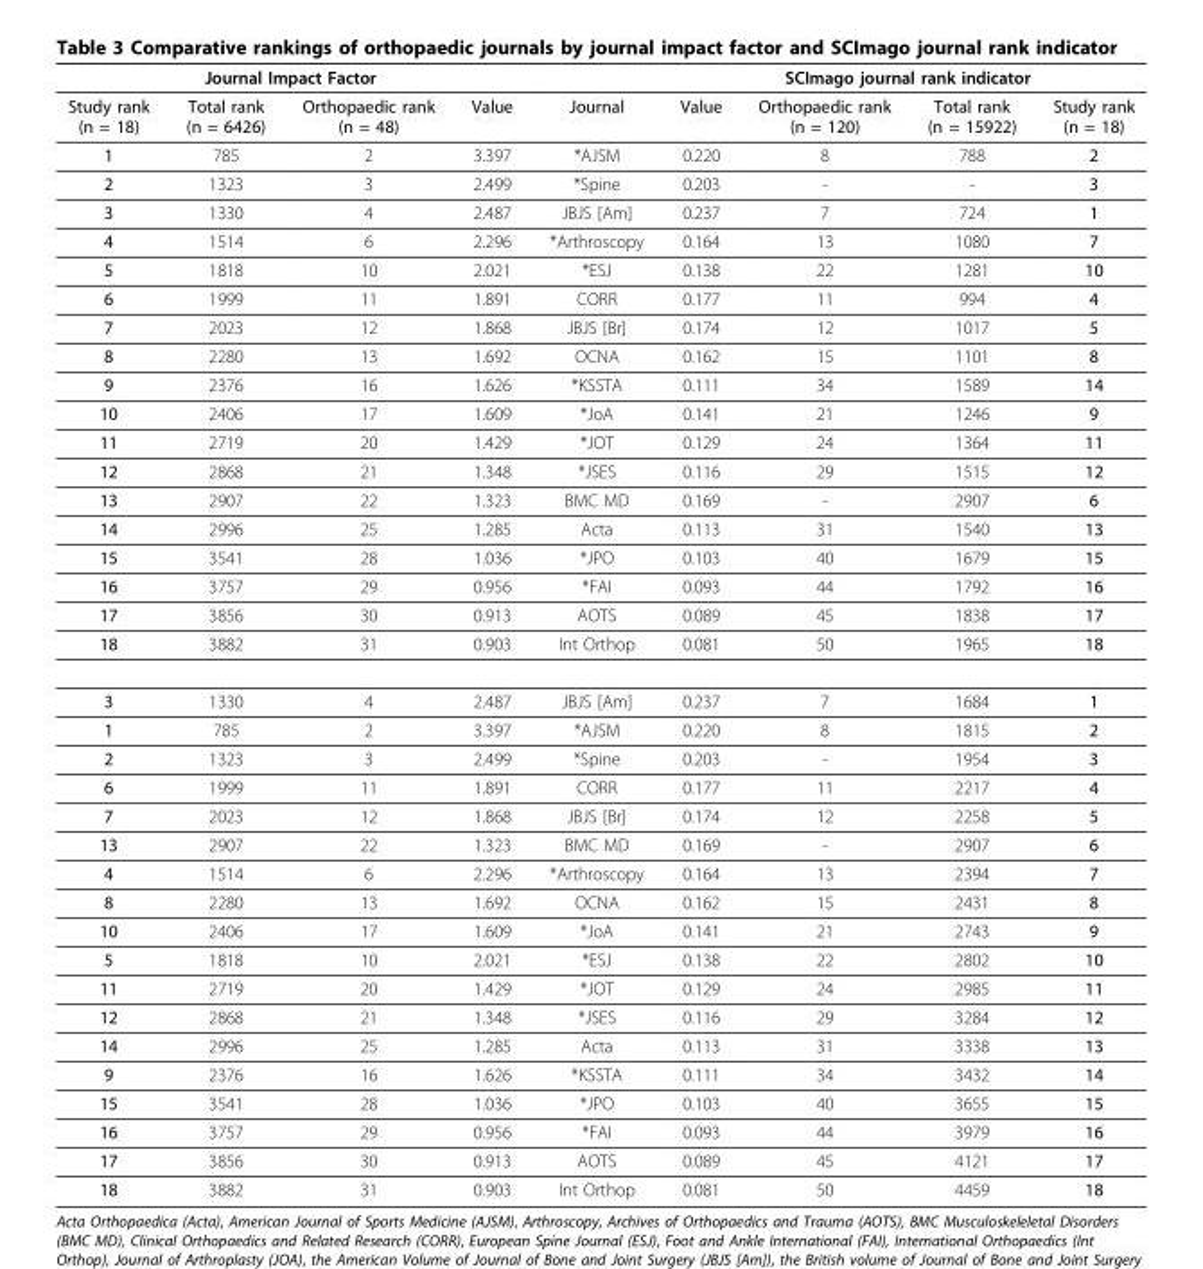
<table><thead><tr><td colspan="4">Journal Impact Factor</td><td rowspan="2">Journal</td><td colspan="4">SCImago journal rank indicator</td></tr><tr><td>Study rank (n = 18)</td><td>Total rank (n = 6426)</td><td>Orthopaedic rank (n = 48)</td><td>Value</td><td>Value</td><td>Orthopaedic rank (n = 120)</td><td>Total rank (n = 15922)</td><td>Study rank (n = 18)</td></tr></thead><tbody><tr><td>1</td><td>785</td><td>2</td><td>3.397</td><td>*AJSM</td><td>0.220</td><td>8</td><td>788</td><td>2</td></tr><tr><td>2</td><td>1323</td><td>3</td><td>2.499</td><td>*Spine</td><td>0.203</td><td>-</td><td>-</td><td>3</td></tr><tr><td>3</td><td>1330</td><td>4</td><td>2.487</td><td>JBJS [Am]</td><td>0.237</td><td>7</td><td>724</td><td>1</td></tr><tr><td>4</td><td>1514</td><td>6</td><td>2.296</td><td>*Arthroscopy</td><td>0.164</td><td>13</td><td>1080</td><td>7</td></tr><tr><td>5</td><td>1818</td><td>10</td><td>2.021</td><td>*ESJ</td><td>0.138</td><td>22</td><td>1281</td><td>10</td></tr><tr><td>6</td><td>1999</td><td>11</td><td>1.891</td><td>CORR</td><td>0.177</td><td>11</td><td>994</td><td>4</td></tr><tr><td>7</td><td>2023</td><td>12</td><td>1.868</td><td>JBJS [Br]</td><td>0.174</td><td>12</td><td>1017</td><td>5</td></tr><tr><td>8</td><td>2280</td><td>13</td><td>1.692</td><td>OCNA</td><td>0.162</td><td>15</td><td>1101</td><td>8</td></tr><tr><td>9</td><td>2376</td><td>16</td><td>1.626</td><td>*KSSTA</td><td>0.111</td><td>34</td><td>1589</td><td>14</td></tr><tr><td>10</td><td>2406</td><td>17</td><td>1.609</td><td>*JoA</td><td>0.141</td><td>21</td><td>1246</td><td>9</td></tr><tr><td>11</td><td>2719</td><td>20</td><td>1.429</td><td>*JOT</td><td>0.129</td><td>24</td><td>1364</td><td>11</td></tr><tr><td>12</td><td>2868</td><td>21</td><td>1.348</td><td>*JSES</td><td>0.116</td><td>29</td><td>1515</td><td>12</td></tr><tr><td>13</td><td>2907</td><td>22</td><td>1.323</td><td>BMC MD</td><td>0.169</td><td>-</td><td>2907</td><td>6</td></tr><tr><td>14</td><td>2996</td><td>25</td><td>1.285</td><td>Acta</td><td>0.113</td><td>31</td><td>1540</td><td>13</td></tr><tr><td>15</td><td>3541</td><td>28</td><td>1.036</td><td>*JPO</td><td>0.103</td><td>40</td><td>1679</td><td>15</td></tr><tr><td>16</td><td>3757</td><td>29</td><td>0.956</td><td>*FAI</td><td>0.093</td><td>44</td><td>1792</td><td>16</td></tr><tr><td>17</td><td>3856</td><td>30</td><td>0.913</td><td>AOTS</td><td>0.089</td><td>45</td><td>1838</td><td>17</td></tr><tr><td>18</td><td>3882</td><td>31</td><td>0.903</td><td>Int Orthop</td><td>0.081</td><td>50</td><td>1965</td><td>18</td></tr><tr><td>3</td><td>1330</td><td>4</td><td>2.487</td><td>JBJS [Am]</td><td>0.237</td><td>7</td><td>1684</td><td>1</td></tr><tr><td>1</td><td>785</td><td>2</td><td>3.397</td><td>*AJSM</td><td>0.220</td><td>8</td><td>1815</td><td>2</td></tr><tr><td>2</td><td>1323</td><td>3</td><td>2.499</td><td>*Spine</td><td>0.203</td><td>-</td><td>1954</td><td>3</td></tr><tr><td>6</td><td>1999</td><td>11</td><td>1.891</td><td>CORR</td><td>0.177</td><td>11</td><td>2217</td><td>4</td></tr><tr><td>7</td><td>2023</td><td>12</td><td>1.868</td><td>JBJS [Br]</td><td>0.174</td><td>12</td><td>2258</td><td>5</td></tr><tr><td>13</td><td>2907</td><td>22</td><td>1.323</td><td>BMC MD</td><td>0.169</td><td>-</td><td>2907</td><td>6</td></tr><tr><td>4</td><td>1514</td><td>6</td><td>2.296</td><td>*Arthroscopy</td><td>0.164</td><td>13</td><td>2394</td><td>7</td></tr><tr><td>8</td><td>2280</td><td>13</td><td>1.692</td><td>OCNA</td><td>0.162</td><td>15</td><td>2431</td><td>8</td></tr><tr><td>10</td><td>2406</td><td>17</td><td>1.609</td><td>*JoA</td><td>0.141</td><td>21</td><td>2743</td><td>9</td></tr><tr><td>5</td><td>1818</td><td>10</td><td>2.021</td><td>*ESJ</td><td>0.138</td><td>22</td><td>2802</td><td>10</td></tr><tr><td>11</td><td>2719</td><td>20</td><td>1.429</td><td>*JOT</td><td>0.129</td><td>24</td><td>2985</td><td>11</td></tr><tr><td>12</td><td>2868</td><td>21</td><td>1.348</td><td>*JSES</td><td>0.116</td><td>29</td><td>3284</td><td>12</td></tr><tr><td>14</td><td>2996</td><td>25</td><td>1.285</td><td>Acta</td><td>0.113</td><td>31</td><td>3338</td><td>13</td></tr><tr><td>9</td><td>2376</td><td>16</td><td>1.626</td><td>*KSSTA</td><td>0.111</td><td>34</td><td>3432</td><td>14</td></tr><tr><td>15</td><td>3541</td><td>28</td><td>1.036</td><td>*JPO</td><td>0.103</td><td>40</td><td>3655</td><td>15</td></tr><tr><td>16</td><td>3757</td><td>29</td><td>0.956</td><td>*FAI</td><td>0.093</td><td>44</td><td>3979</td><td>16</td></tr><tr><td>17</td><td>3856</td><td>30</td><td>0.913</td><td>AOTS</td><td>0.089</td><td>45</td><td>4121</td><td>17</td></tr><tr><td>18</td><td>3882</td><td>31</td><td>0.903</td><td>Int Orthop</td><td>0.081</td><td>50</td><td>4459</td><td>18</td></tr></tbody></table>